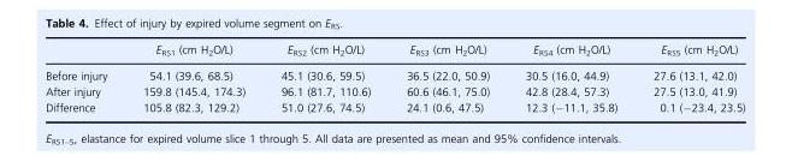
<table><thead><tr><td></td><td>E<sub>RS1</sub> (cm H<sub>2</sub>O/L)</td><td>E<sub>RS2</sub> (cm H<sub>2</sub>O/L)</td><td>E<sub>RS3</sub> (cm H<sub>2</sub>O/L)</td><td>E<sub>RS4</sub> (cm H<sub>2</sub>O/L)</td><td>E<sub>RS5</sub> (cm H<sub>2</sub>O/L)</td></tr></thead><tbody><tr><td>Before injury</td><td>54.1 (39.6, 68.5)</td><td>45.1 (30.6, 59.5)</td><td>36.5 (22.0, 50.9)</td><td>30.5 (16.0, 44.9)</td><td>27.6 (13.1, 42.0)</td></tr><tr><td>After injury</td><td>159.8 (145.4, 174.3)</td><td>96.1 (81.7, 110.6)</td><td>60.6 (46.1, 75.0)</td><td>42.8 (28.4, 57.3)</td><td>27.5 (13.0, 41.9)</td></tr><tr><td>Difference</td><td>105.8 (82.3, 129.2)</td><td>51.0 (27.6, 74.5)</td><td>24.1 (0.6, 47.5)</td><td>12.3 (−11.1, 35.8)</td><td>0.1 (−23.4, 23.5)</td></tr></tbody></table>